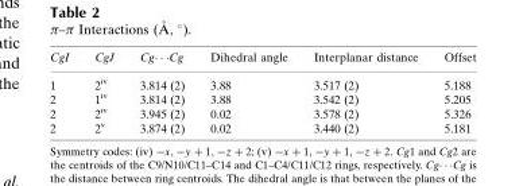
<table><thead><tr><td>CgI</td><td>CgJ</td><td>Cg� � �Cg</td><td>Dihedral angle</td><td>Interplanar distance</td><td>Offset</td></tr></thead><tbody><tr><td>1</td><td>2<sup>iv</sup></td><td>3.814 (2)</td><td>3.88</td><td>3.517 (2)</td><td>5.188</td></tr><tr><td>2</td><td>1<sup>iv</sup></td><td>3.814 (2)</td><td>3.88</td><td>3.542 (2)</td><td>5.205</td></tr><tr><td>2</td><td>2<sup>iv</sup></td><td>3.945 (2)</td><td>0.02</td><td>3.578 (2)</td><td>5.326</td></tr><tr><td>2</td><td>2<sup>v</sup></td><td>3.874 (2)</td><td>0.02</td><td>3.440 (2)</td><td>5.181</td></tr></tbody></table>